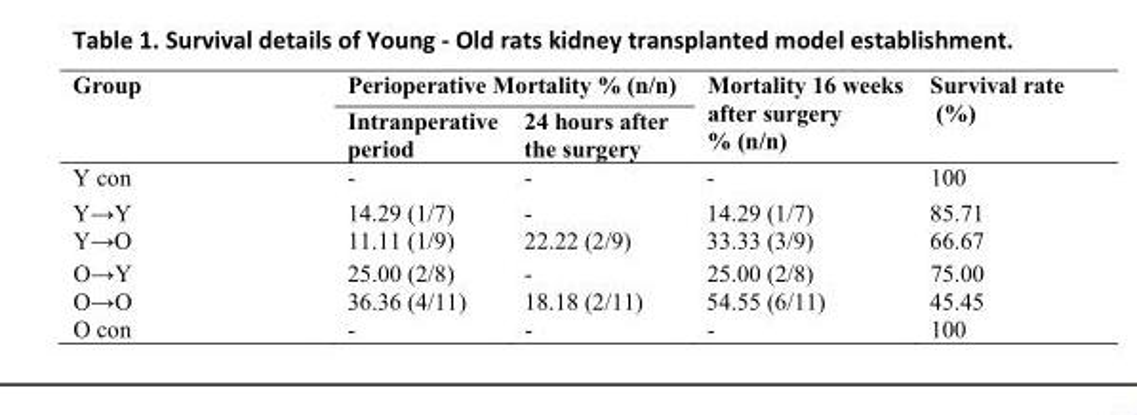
<table><tbody><tr><td rowspan="2">Group</td><td colspan="2">Perioperative Mortality % (n/n)</td><td rowspan="2">Mortality 16 weeks after surgery % (n/n)</td><td rowspan="2">Survival rate (%)</td></tr><tr><td>Intranperative period</td><td>24 hours after the surgery</td></tr><tr><td>Y con</td><td>-</td><td>-</td><td>-</td><td>100</td></tr><tr><td>Y→Y</td><td>14.29 (1/7)</td><td>-</td><td>14.29 (1/7)</td><td>85.71</td></tr><tr><td>Y→O</td><td>11.11 (1/9)</td><td>22.22 (2/9)</td><td>33.33 (3/9)</td><td>66.67</td></tr><tr><td>O→Y</td><td>25.00 (2/8)</td><td>-</td><td>25.00 (2/8)</td><td>75.00</td></tr><tr><td>O→O</td><td>36.36 (4/11)</td><td>18.18 (2/11)</td><td>54.55 (6/11)</td><td>45.45</td></tr><tr><td>O con</td><td>-</td><td>-</td><td>-</td><td>100</td></tr></tbody></table>